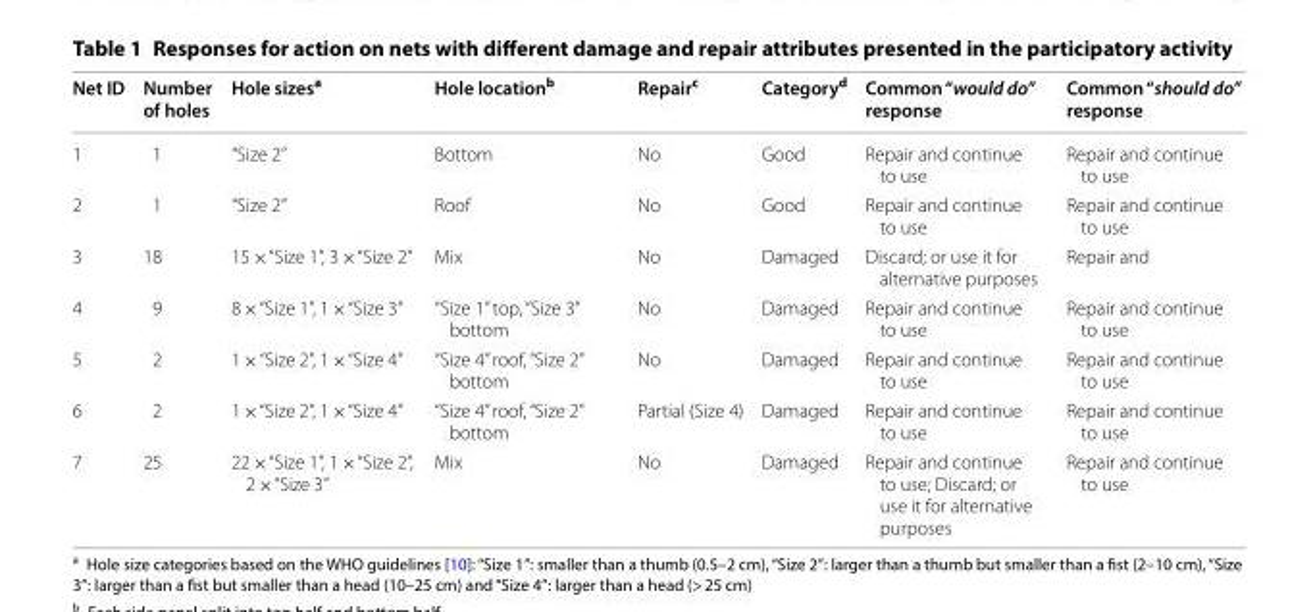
<table><thead><tr><td>Net ID</td><td>Number of holes</td><td>Hole sizes<sup>a</sup></td><td>Hole location<sup>b</sup></td><td>Repair<sup>c</sup></td><td>Category<sup>d</sup></td><td>Common “would do” response</td><td>Common “should do” response</td></tr></thead><tbody><tr><td>1</td><td>1</td><td>“Size 2”</td><td>Bottom</td><td>No</td><td>Good</td><td>Repair and continue to use</td><td>Repair and continue to use</td></tr><tr><td>2</td><td>1</td><td>“Size 2”</td><td>Roof</td><td>No</td><td>Good</td><td>Repair and continue to use</td><td>Repair and continue to use</td></tr><tr><td>3</td><td>18</td><td>15 × “Size 1”, 3 × “Size 2”</td><td>Mix</td><td>No</td><td>Damaged</td><td>Discard; or use it for alternative purposes</td><td>Repair and</td></tr><tr><td>4</td><td>9</td><td>8 × “Size 1”, 1 × “Size 3”</td><td>“Size 1” top, “Size 3” bottom</td><td>No</td><td>Damaged</td><td>Repair and continue to use</td><td>Repair and continue to use</td></tr><tr><td>5</td><td>2</td><td>1 × “Size 2”, 1 × “Size 4”</td><td>“Size 4” roof, “Size 2” bottom</td><td>No</td><td>Damaged</td><td>Repair and continue to use</td><td>Repair and continue to use</td></tr><tr><td>6</td><td>2</td><td>1 × “Size 2”, 1 × “Size 4”</td><td>“Size 4” roof, “Size 2” bottom</td><td>Partial (Size 4)</td><td>Damaged</td><td>Repair and continue to use</td><td>Repair and continue to use</td></tr><tr><td>7</td><td>25</td><td>22 × “Size 1”, 1 × “Size 2”, 2 × “Size 3”</td><td>Mix</td><td>No</td><td>Damaged</td><td>Repair and continue to use; Discard; or use it for alternative purposes</td><td>Repair and continue to use</td></tr></tbody></table>